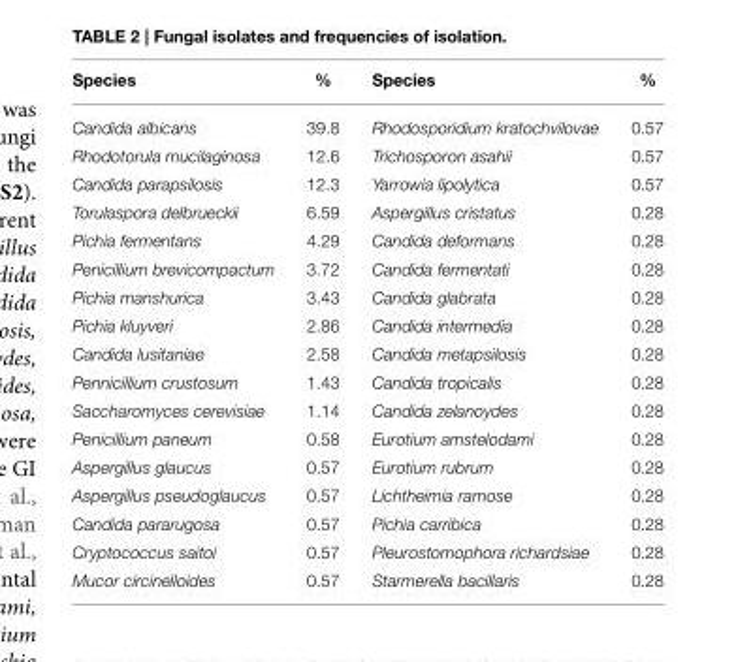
<table><thead><tr><td>Species</td><td>%</td><td>Species</td><td>%</td></tr></thead><tbody><tr><td>Candida albicans</td><td>39.8</td><td>Rhodosporidium kratochvilovae</td><td>0.57</td></tr><tr><td>Rhodotorula mucilaginosa</td><td>12.6</td><td>Trichosporon asahii</td><td>0.57</td></tr><tr><td>Candida parapsilosis</td><td>12.3</td><td>Yarrowia lipolytica</td><td>0.57</td></tr><tr><td>Torulaspora delbrueckii</td><td>6.59</td><td>Aspergillus cristatus</td><td>0.28</td></tr><tr><td>Pichia fermentans</td><td>4.29</td><td>Candida deformans</td><td>0.28</td></tr><tr><td>Penicillium brevicompactum</td><td>3.72</td><td>Candida fermentati</td><td>0.28</td></tr><tr><td>Pichia manshurica</td><td>3.43</td><td>Candida glabrata</td><td>0.28</td></tr><tr><td>Pichia kluyveri</td><td>2.86</td><td>Candida intermedia</td><td>0.28</td></tr><tr><td>Candida lusitaniae</td><td>2.58</td><td>Candida metapsilosis</td><td>0.28</td></tr><tr><td>Pennicillium crustosum</td><td>1.43</td><td>Candida tropicalis</td><td>0.28</td></tr><tr><td>Saccharomyces cerevisiae</td><td>1.14</td><td>Candida zelanoydes</td><td>0.28</td></tr><tr><td>Penicillium paneum</td><td>0.58</td><td>Eurotium amstelodami</td><td>0.28</td></tr><tr><td>Aspergillus glaucus</td><td>0.57</td><td>Eurotium rubrum</td><td>0.28</td></tr><tr><td>Aspergillus pseudoglaucus</td><td>0.57</td><td>Lichtheimia ramose</td><td>0.28</td></tr><tr><td>Candida pararugosa</td><td>0.57</td><td>Pichia carribica</td><td>0.28</td></tr><tr><td>Cryptococcus saitoi</td><td>0.57</td><td>Pleurostomophora richardsiae</td><td>0.28</td></tr><tr><td>Mucor circinelloides</td><td>0.57</td><td>Starmerella bacillaris</td><td>0.28</td></tr></tbody></table>